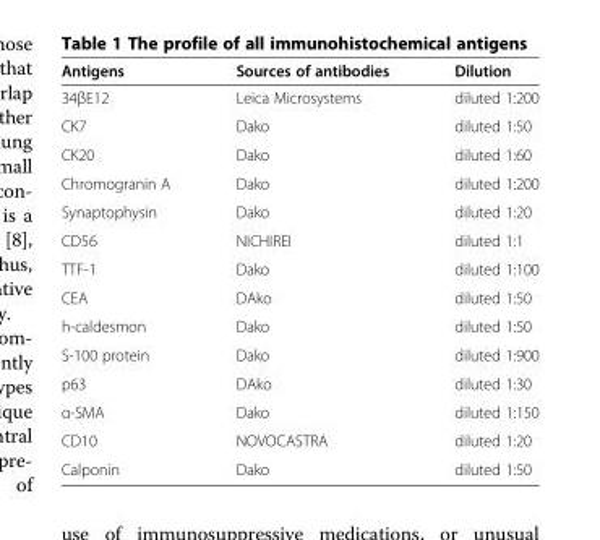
<table><thead><tr><td>Antigens</td><td>Sources of antibodies</td><td>Dilution</td></tr></thead><tbody><tr><td>34βE12</td><td>Leica Microsystems</td><td>diluted 1:200</td></tr><tr><td>CK7</td><td>Dako</td><td>diluted 1:50</td></tr><tr><td>CK20</td><td>Dako</td><td>diluted 1:60</td></tr><tr><td>Chromogranin A</td><td>Dako</td><td>diluted 1:200</td></tr><tr><td>Synaptophysin</td><td>Dako</td><td>diluted 1:20</td></tr><tr><td>CD56</td><td>NICHIREI</td><td>diluted 1:1</td></tr><tr><td>TTF-1</td><td>Dako</td><td>diluted 1:100</td></tr><tr><td>CEA</td><td>DAko</td><td>diluted 1:50</td></tr><tr><td>h-caldesmon</td><td>Dako</td><td>diluted 1:50</td></tr><tr><td>S-100 protein</td><td>Dako</td><td>diluted 1:900</td></tr><tr><td>p63</td><td>DAko</td><td>diluted 1:30</td></tr><tr><td>α-SMA</td><td>Dako</td><td>diluted 1:150</td></tr><tr><td>CD10</td><td>NOVOCASTRA</td><td>diluted 1:20</td></tr><tr><td>Calponin</td><td>Dako</td><td>diluted 1:50</td></tr></tbody></table>